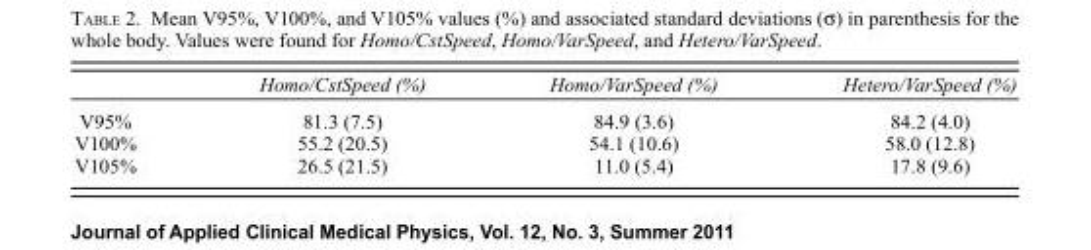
<table><thead><tr><td></td><td>Homo/CstSpeed (%)</td><td>Homo/VarSpeed (%)</td><td>Hetero/VarSpeed (%)</td></tr></thead><tbody><tr><td>V95%</td><td>81.3 (7.5)</td><td>84.9 (3.6)</td><td>84.2 (4.0)</td></tr><tr><td>V100%</td><td>55.2 (20.5)</td><td>54.1 (10.6)</td><td>58.0 (12.8)</td></tr><tr><td>V105%</td><td>26.5 (21.5)</td><td>11.0 (5.4)</td><td>17.8 (9.6)</td></tr></tbody></table>